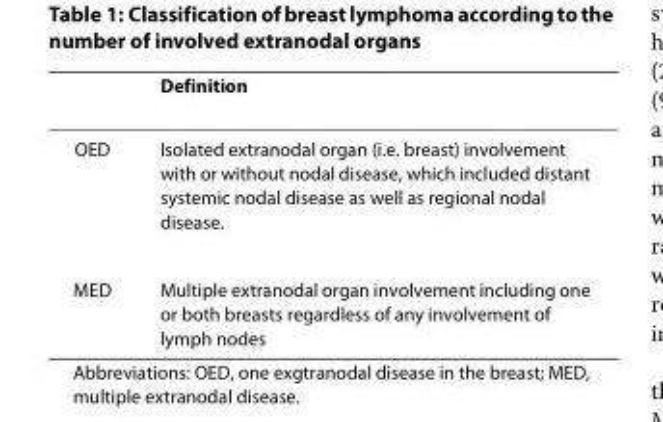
<table><thead><tr><td></td><td>Definition</td></tr></thead><tbody><tr><td>OED</td><td>Isolated extranodal organ (i.e. breast) involvement with or without nodal disease, which included distant systemic nodal disease as well as regional nodal disease.</td></tr><tr><td>MED</td><td>Multiple extranodal organ involvement including one or both breasts regardless of any involvement of lymph nodes</td></tr></tbody></table>